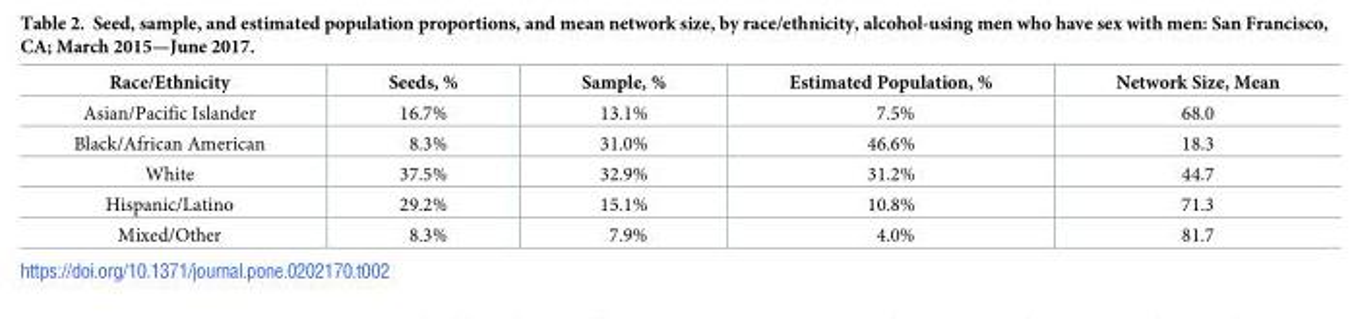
<table><thead><tr><td>Race/Ethnicity</td><td>Seeds, %</td><td>Sample, %</td><td>Estimated Population, %</td><td>Network Size, Mean</td></tr></thead><tbody><tr><td>Asian/Pacific Islander</td><td>16.7%</td><td>13.1%</td><td>7.5%</td><td>68.0</td></tr><tr><td>Black/African American</td><td>8.3%</td><td>31.0%</td><td>46.6%</td><td>18.3</td></tr><tr><td>White</td><td>37.5%</td><td>32.9%</td><td>31.2%</td><td>44.7</td></tr><tr><td>Hispanic/Latino</td><td>29.2%</td><td>15.1%</td><td>10.8%</td><td>71.3</td></tr><tr><td>Mixed/Other</td><td>8.3%</td><td>7.9%</td><td>4.0%</td><td>81.7</td></tr></tbody></table>